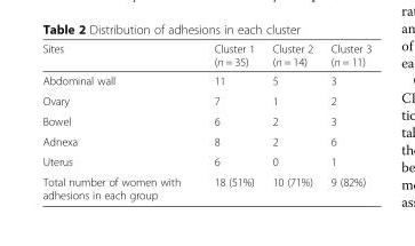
<table><thead><tr><td>Sites</td><td>Cluster 1 (n = 35)</td><td>Cluster 2 (n = 14)</td><td>Cluster 3 (n = 11)</td></tr></thead><tbody><tr><td>Abdominal wall</td><td>11</td><td>5</td><td>3</td></tr><tr><td>Ovary</td><td>7</td><td>1</td><td>2</td></tr><tr><td>Bowel</td><td>6</td><td>2</td><td>3</td></tr><tr><td>Adnexa</td><td>8</td><td>2</td><td>6</td></tr><tr><td>Uterus</td><td>6</td><td>0</td><td>1</td></tr><tr><td>Total number of women with adhesions in each group</td><td>18 (51%)</td><td>10 (71%)</td><td>9 (82%)</td></tr></tbody></table>